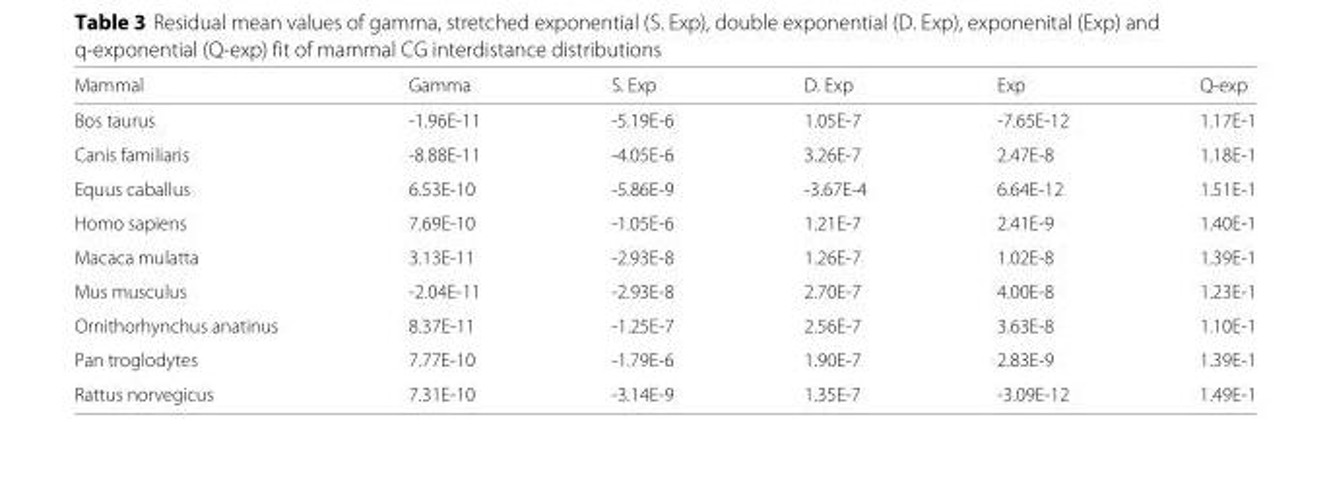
<table><thead><tr><td>Mammal</td><td>Gamma</td><td>S. Exp</td><td>D. Exp</td><td>Exp</td><td>Q-exp</td></tr></thead><tbody><tr><td>Bos taurus</td><td>-1.96E-11</td><td>-5.19E-6</td><td>1.05E-7</td><td>-7.65E-12</td><td>1.17E-1</td></tr><tr><td>Canis familiaris</td><td>-8.88E-11</td><td>-4.05E-6</td><td>3.26E-7</td><td>2.47E-8</td><td>1.18E-1</td></tr><tr><td>Equus caballus</td><td>6.53E-10</td><td>-5.86E-9</td><td>-3.67E-4</td><td>6.64E-12</td><td>1.51E-1</td></tr><tr><td>Homo sapiens</td><td>7.69E-10</td><td>-1.05E-6</td><td>1.21E-7</td><td>2.41E-9</td><td>1.40E-1</td></tr><tr><td>Macaca mulatta</td><td>3.13E-11</td><td>-2.93E-8</td><td>1.26E-7</td><td>1.02E-8</td><td>1.39E-1</td></tr><tr><td>Mus musculus</td><td>-2.04E-11</td><td>-2.93E-8</td><td>2.70E-7</td><td>4.00E-8</td><td>1.23E-1</td></tr><tr><td>Ornithorhynchus anatinus</td><td>8.37E-11</td><td>-1.25E-7</td><td>2.56E-7</td><td>3.63E-8</td><td>1.10E-1</td></tr><tr><td>Pan troglodytes</td><td>7.77E-10</td><td>-1.79E-6</td><td>1.90E-7</td><td>2.83E-9</td><td>1.39E-1</td></tr><tr><td>Rattus norvegicus</td><td>7.31E-10</td><td>-3.14E-9</td><td>1.35E-7</td><td>-3.09E-12</td><td>1.49E-1</td></tr></tbody></table>